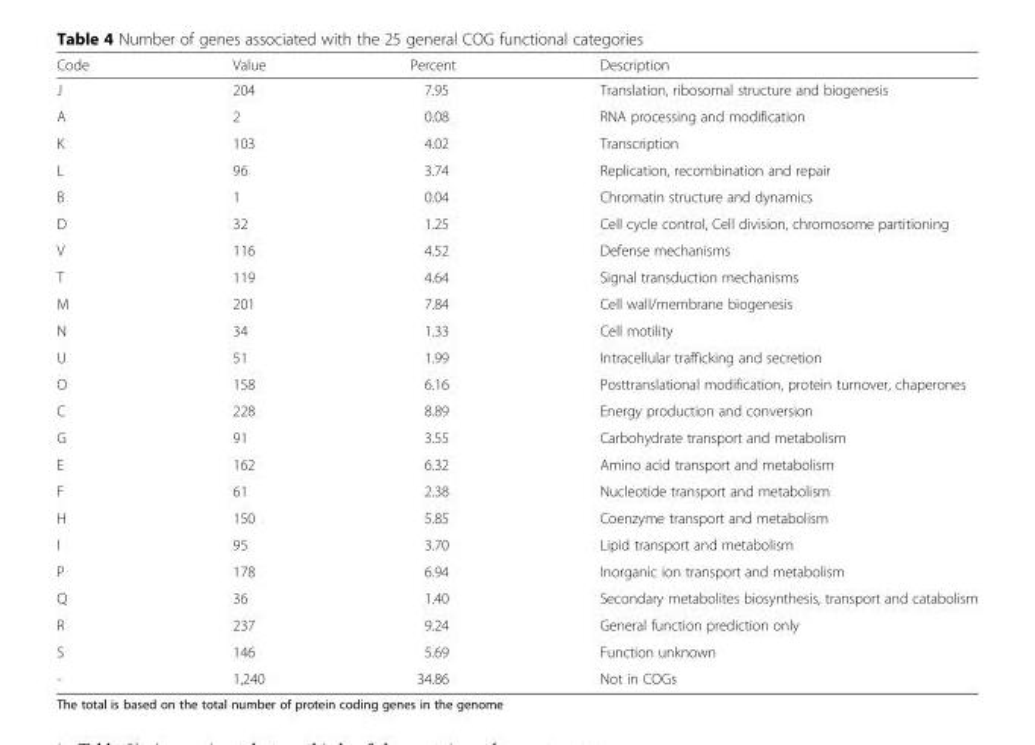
<table><thead><tr><td>Code</td><td>Value</td><td>Percent</td><td>Description</td></tr></thead><tbody><tr><td>J</td><td>204</td><td>7.95</td><td>Translation, ribosomal structure and biogenesis</td></tr><tr><td>A</td><td>2</td><td>0.08</td><td>RNA processing and modification</td></tr><tr><td>K</td><td>103</td><td>4.02</td><td>Transcription</td></tr><tr><td>L</td><td>96</td><td>3.74</td><td>Replication, recombination and repair</td></tr><tr><td>B</td><td>1</td><td>0.04</td><td>Chromatin structure and dynamics</td></tr><tr><td>D</td><td>32</td><td>1.25</td><td>Cell cycle control, Cell division, chromosome partitioning</td></tr><tr><td>V</td><td>116</td><td>4.52</td><td>Defense mechanisms</td></tr><tr><td>T</td><td>119</td><td>4.64</td><td>Signal transduction mechanisms</td></tr><tr><td>M</td><td>201</td><td>7.84</td><td>Cell wall/membrane biogenesis</td></tr><tr><td>N</td><td>34</td><td>1.33</td><td>Cell motility</td></tr><tr><td>U</td><td>51</td><td>1.99</td><td>Intracellular trafficking and secretion</td></tr><tr><td>O</td><td>158</td><td>6.16</td><td>Posttranslational modification, protein turnover, chaperones</td></tr><tr><td>C</td><td>228</td><td>8.89</td><td>Energy production and conversion</td></tr><tr><td>G</td><td>91</td><td>3.55</td><td>Carbohydrate transport and metabolism</td></tr><tr><td>E</td><td>162</td><td>6.32</td><td>Amino acid transport and metabolism</td></tr><tr><td>F</td><td>61</td><td>2.38</td><td>Nucleotide transport and metabolism</td></tr><tr><td>H</td><td>150</td><td>5.85</td><td>Coenzyme transport and metabolism</td></tr><tr><td>I</td><td>95</td><td>3.70</td><td>Lipid transport and metabolism</td></tr><tr><td>P</td><td>178</td><td>6.94</td><td>Inorganic ion transport and metabolism</td></tr><tr><td>Q</td><td>36</td><td>1.40</td><td>Secondary metabolites biosynthesis, transport and catabolism</td></tr><tr><td>R</td><td>237</td><td>9.24</td><td>General function prediction only</td></tr><tr><td>S</td><td>146</td><td>5.69</td><td>Function unknown</td></tr><tr><td>-</td><td>1,240</td><td>34.86</td><td>Not in COGs</td></tr></tbody></table>